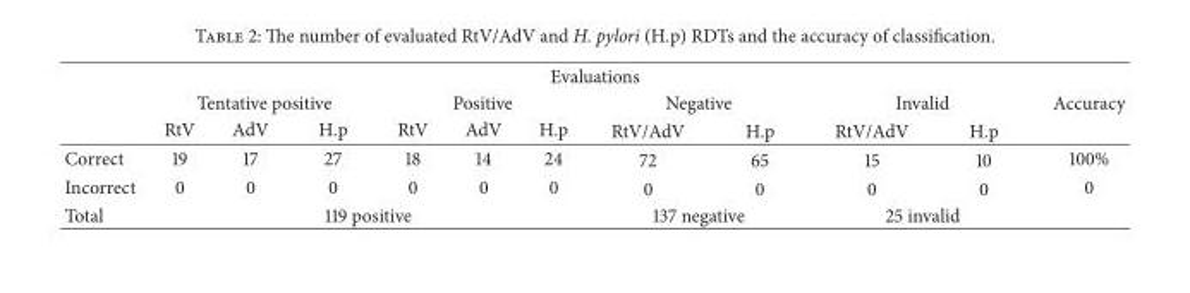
<table><thead><tr><td colspan="12">Evaluations</td></tr><tr><td rowspan="2"></td><td colspan="3">Tentative positive</td><td colspan="3">Positive</td><td colspan="2">Negative</td><td colspan="2">Invalid</td><td rowspan="2">Accuracy</td></tr><tr><td>RtV</td><td>AdV</td><td>H.p</td><td>RtV</td><td>AdV</td><td>H.p</td><td>RtV/AdV</td><td>H.p</td><td>RtV/AdV</td><td>H.p</td></tr></thead><tbody><tr><td>Correct</td><td>19</td><td>17</td><td>27</td><td>18</td><td>14</td><td>24</td><td>72</td><td>65</td><td>15</td><td>10</td><td>100%</td></tr><tr><td>Incorrect</td><td>0</td><td>0</td><td>0</td><td>0</td><td>0</td><td>0</td><td>0</td><td>0</td><td>0</td><td>0</td><td>0</td></tr><tr><td>Total</td><td colspan="6">119 positive</td><td colspan="2">137 negative</td><td colspan="2">25 invalid</td><td></td></tr></tbody></table>